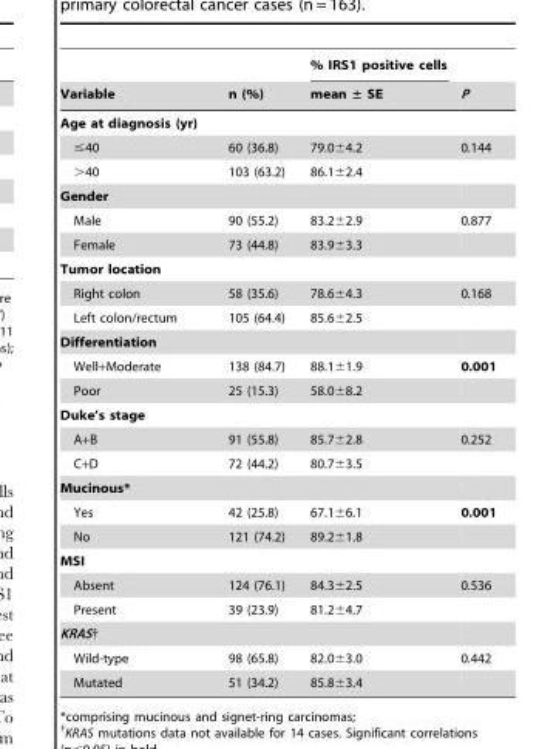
<table><thead><tr><td rowspan="2">Variable</td><td rowspan="2">n (%)</td><td rowspan="2">% IRS1 positive cells mean ± SE</td><td rowspan="2">P</td></tr><tr></tr></thead><tbody><tr><td colspan="4">Age at diagnosis (yr)</td></tr><tr><td>≤40</td><td>60 (36.8)</td><td>79.0±4.2</td><td>0.144</td></tr><tr><td>&gt;40</td><td>103 (63.2)</td><td>86.1±2.4</td><td></td></tr><tr><td colspan="4">Gender</td></tr><tr><td>Male</td><td>90 (55.2)</td><td>83.2±2.9</td><td>0.877</td></tr><tr><td>Female</td><td>73 (44.8)</td><td>83.9±3.3</td><td></td></tr><tr><td colspan="4">Tumor location</td></tr><tr><td>Right colon</td><td>58 (35.6)</td><td>78.6±4.3</td><td>0.168</td></tr><tr><td>Left colon/rectum</td><td>105 (64.4)</td><td>85.6±2.5</td><td></td></tr><tr><td colspan="4">Differentiation</td></tr><tr><td>Well+Moderate</td><td>138 (84.7)</td><td>88.1±1.9</td><td>0.001</td></tr><tr><td>Poor</td><td>25 (15.3)</td><td>58.0±8.2</td><td></td></tr><tr><td colspan="4">Duke’s stage</td></tr><tr><td>A+B</td><td>91 (55.8)</td><td>85.7±2.8</td><td>0.252</td></tr><tr><td>C+D</td><td>72 (44.2)</td><td>80.7±3.5</td><td></td></tr><tr><td colspan="4">Mucinous*</td></tr><tr><td>Yes</td><td>42 (25.8)</td><td>67.1±6.1</td><td>0.001</td></tr><tr><td>No</td><td>121 (74.2)</td><td>89.2±1.8</td><td></td></tr><tr><td colspan="4">MSI</td></tr><tr><td>Absent</td><td>124 (76.1)</td><td>84.3±2.5</td><td>0.536</td></tr><tr><td>Present</td><td>39 (23.9)</td><td>81.2±4.7</td><td></td></tr><tr><td colspan="4">KRAS†</td></tr><tr><td>Wild-type</td><td>98 (65.8)</td><td>82.0±3.0</td><td>0.442</td></tr><tr><td>Mutated</td><td>51 (34.2)</td><td>85.8±3.4</td><td></td></tr></tbody></table>